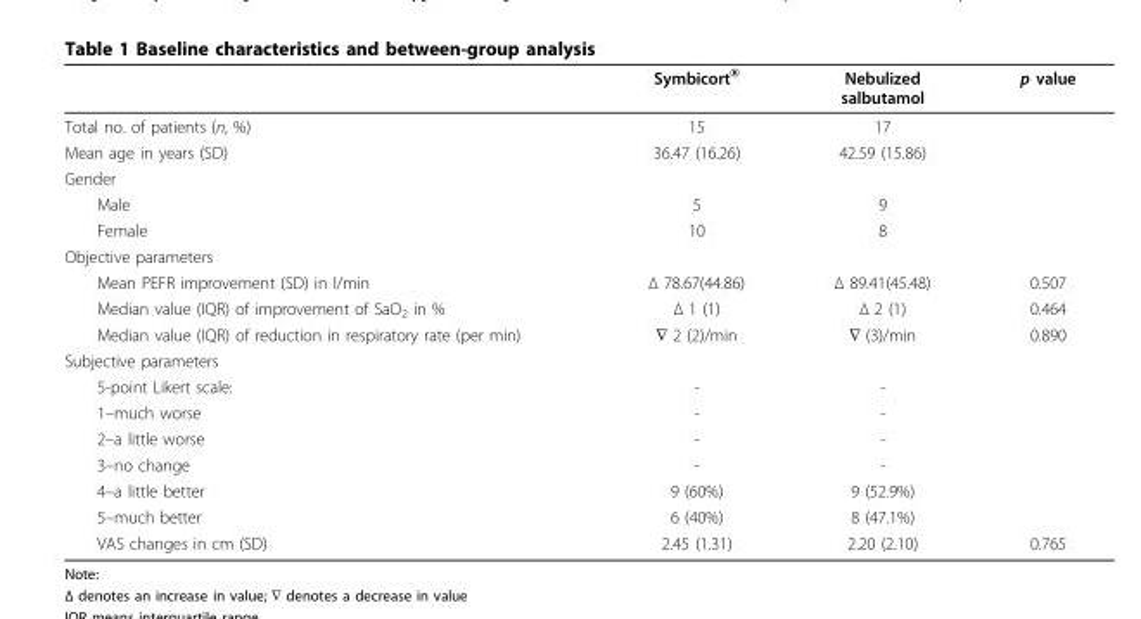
<table><thead><tr><td></td><td>Symbicort<sup>®</sup></td><td>Nebulized salbutamol</td><td>p value</td></tr></thead><tbody><tr><td>Total no. of patients (n, %)</td><td>15</td><td>17</td><td></td></tr><tr><td>Mean age in years (SD)</td><td>36.47 (16.26)</td><td>42.59 (15.86)</td><td></td></tr><tr><td colspan="4">Gender</td></tr><tr><td>Male</td><td>5</td><td>9</td><td></td></tr><tr><td>Female</td><td>10</td><td>8</td><td></td></tr><tr><td colspan="4">Objective parameters</td></tr><tr><td>Mean PEFR improvement (SD) in l/min</td><td>Δ 78.67(44.86)</td><td>Δ 89.41(45.48)</td><td>0.507</td></tr><tr><td>Median value (IQR) of improvement of SaO<sub>2</sub> in %</td><td>Δ 1 (1)</td><td>Δ 2 (1)</td><td>0.464</td></tr><tr><td>Median value (IQR) of reduction in respiratory rate (per min)</td><td>∇ 2 (2)/min</td><td>∇ (3)/min</td><td>0.890</td></tr><tr><td colspan="4">Subjective parameters</td></tr><tr><td>5-point Likert scale:</td><td>-</td><td>-</td><td></td></tr><tr><td>1–much worse</td><td>-</td><td>-</td><td></td></tr><tr><td>2–a little worse</td><td>-</td><td>-</td><td></td></tr><tr><td>3–no change</td><td>-</td><td>-</td><td></td></tr><tr><td>4–a little better</td><td>9 (60%)</td><td>9 (52.9%)</td><td></td></tr><tr><td>5–much better</td><td>6 (40%)</td><td>8 (47.1%)</td><td></td></tr><tr><td>VAS changes in cm (SD)</td><td>2.45 (1.31)</td><td>2.20 (2.10)</td><td>0.765</td></tr></tbody></table>